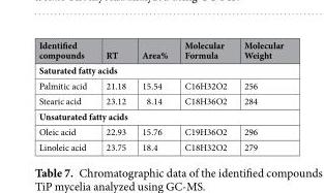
<table><thead><tr><td>Identified compounds</td><td>RT</td><td>Area%</td><td>Molecular Formula</td><td>Molecular Weight</td></tr></thead><tbody><tr><td colspan="5">Saturated fatty acids</td></tr><tr><td>Palmitic acid</td><td>21.18</td><td>15.54</td><td>C16H32O2</td><td>256</td></tr><tr><td>Stearic acid</td><td>23.12</td><td>8.14</td><td>C18H36O2</td><td>284</td></tr><tr><td colspan="5">Unsaturated fatty acids</td></tr><tr><td>Oleic acid</td><td>22.93</td><td>15.76</td><td>C19H36O2</td><td>296</td></tr><tr><td>Linoleic acid</td><td>23.75</td><td>18.4</td><td>C18H32O2</td><td>279</td></tr></tbody></table>